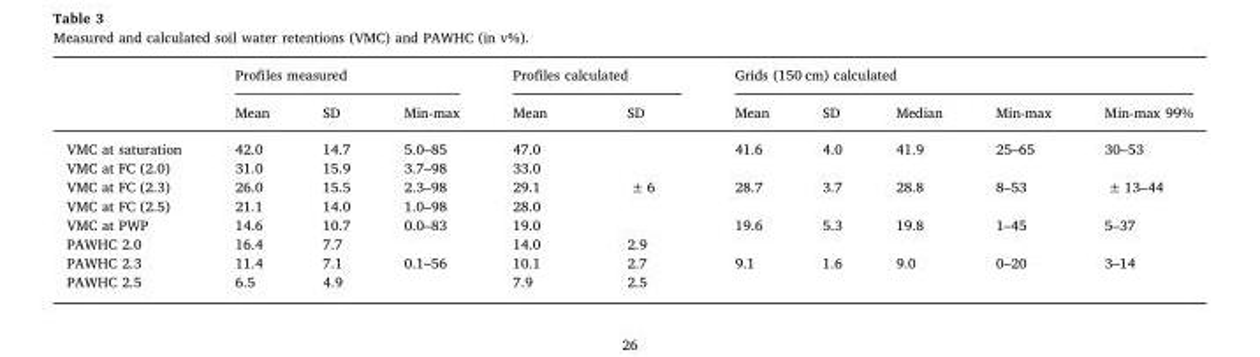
<table><thead><tr><td rowspan="2"></td><td colspan="3">Profiles measured</td><td colspan="2">Profiles calculated</td><td colspan="5">Grids (150 cm) calculated</td></tr><tr><td>Mean</td><td>SD</td><td>Min-max</td><td>Mean</td><td>SD</td><td>Mean</td><td>SD</td><td>Median</td><td>Min-max</td><td>Min-max 99%</td></tr></thead><tbody><tr><td>VMC at saturation</td><td>42.0</td><td>14.7</td><td>5.0–85</td><td>47.0</td><td></td><td>41.6</td><td>4.0</td><td>41.9</td><td>25–65</td><td>30–53</td></tr><tr><td>VMC at FC (2.0)</td><td>31.0</td><td>15.9</td><td>3.7–98</td><td>33.0</td><td></td><td></td><td></td><td></td><td></td><td></td></tr><tr><td>VMC at FC (2.3)</td><td>26.0</td><td>15.5</td><td>2.3–98</td><td>29.1</td><td>± 6</td><td>28.7</td><td>3.7</td><td>28.8</td><td>8–53</td><td>± 13–44</td></tr><tr><td>VMC at FC (2.5)</td><td>21.1</td><td>14.0</td><td>1.0–98</td><td>28.0</td><td></td><td></td><td></td><td></td><td></td><td></td></tr><tr><td>VMC at PWP</td><td>14.6</td><td>10.7</td><td>0.0–83</td><td>19.0</td><td></td><td>19.6</td><td>5.3</td><td>19.8</td><td>1–45</td><td>5–37</td></tr><tr><td>PAWHC 2.0</td><td>16.4</td><td>7.7</td><td></td><td>14.0</td><td>2.9</td><td></td><td></td><td></td><td></td><td></td></tr><tr><td>PAWHC 2.3</td><td>11.4</td><td>7.1</td><td>0.1–56</td><td>10.1</td><td>2.7</td><td>9.1</td><td>1.6</td><td>9.0</td><td>0–20</td><td>3–14</td></tr><tr><td>PAWHC 2.5</td><td>6.5</td><td>4.9</td><td></td><td>7.9</td><td>2.5</td><td></td><td></td><td></td><td></td><td></td></tr></tbody></table>